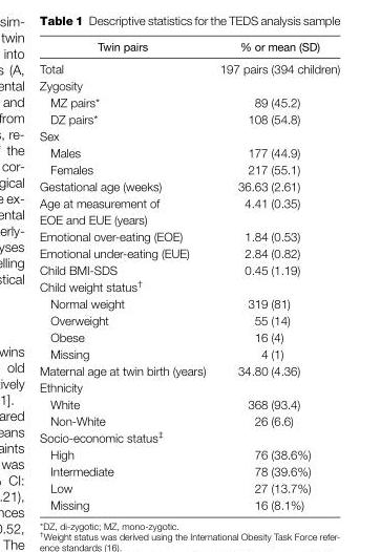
<table><thead><tr><td>Twin pairs</td><td>% or mean (SD)</td></tr></thead><tbody><tr><td>Total</td><td>197 pairs (394 children)</td></tr><tr><td colspan="2">Zygosity</td></tr><tr><td>MZ pairs*</td><td>89 (45.2)</td></tr><tr><td>DZ pairs*</td><td>108 (54.8)</td></tr><tr><td colspan="2">Sex</td></tr><tr><td>Males</td><td>177 (44.9)</td></tr><tr><td>Females</td><td>217 (55.1)</td></tr><tr><td>Gestational age (weeks)</td><td>36.63 (2.61)</td></tr><tr><td>Age at measurement of EOE and EUE (years)</td><td>4.41 (0.35)</td></tr><tr><td>Emotional over-eating (EOE)</td><td>1.84 (0.53)</td></tr><tr><td>Emotional under-eating (EUE)</td><td>2.84 (0.82)</td></tr><tr><td>Child BMI-SDS</td><td>0.45 (1.19)</td></tr><tr><td colspan="2">Child weight status†</td></tr><tr><td>Normal weight</td><td>319 (81)</td></tr><tr><td>Overweight</td><td>55 (14)</td></tr><tr><td>Obese</td><td>16 (4)</td></tr><tr><td>Missing</td><td>4 (1)</td></tr><tr><td>Maternal age at twin birth (years)</td><td>34.80 (4.36)</td></tr><tr><td colspan="2">Ethnicity</td></tr><tr><td>White</td><td>368 (93.4)</td></tr><tr><td>Non-White</td><td>26 (6.6)</td></tr><tr><td colspan="2">Socio-economic status‡</td></tr><tr><td>High</td><td>76 (38.6%)</td></tr><tr><td>Intermediate</td><td>78 (39.6%)</td></tr><tr><td>Low</td><td>27 (13.7%)</td></tr><tr><td>Missing</td><td>16 (8.1%)</td></tr></tbody></table>